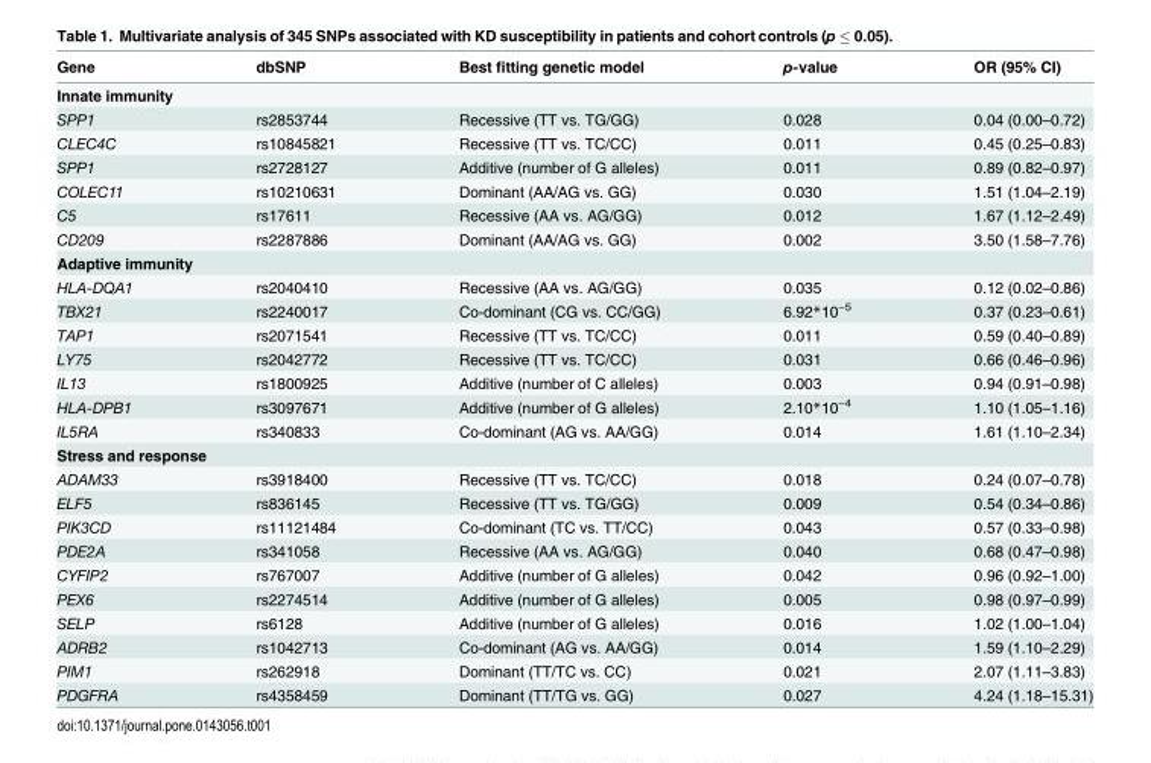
<table><thead><tr><td>Gene</td><td>dbSNP</td><td>Best fitting genetic model</td><td>p-value</td><td>OR (95% CI)</td></tr></thead><tbody><tr><td colspan="5">Innate immunity</td></tr><tr><td>SPP1</td><td>rs2853744</td><td>Recessive (TT vs. TG/GG)</td><td>0.028</td><td>0.04 (0.00–0.72)</td></tr><tr><td>CLEC4C</td><td>rs10845821</td><td>Recessive (TT vs. TC/CC)</td><td>0.011</td><td>0.45 (0.25–0.83)</td></tr><tr><td>SPP1</td><td>rs2728127</td><td>Additive (number of G alleles)</td><td>0.011</td><td>0.89 (0.82–0.97)</td></tr><tr><td>COLEC11</td><td>rs10210631</td><td>Dominant (AA/AG vs. GG)</td><td>0.030</td><td>1.51 (1.04–2.19)</td></tr><tr><td>C5</td><td>rs17611</td><td>Recessive (AA vs. AG/GG)</td><td>0.012</td><td>1.67 (1.12–2.49)</td></tr><tr><td>CD209</td><td>rs2287886</td><td>Dominant (AA/AG vs. GG)</td><td>0.002</td><td>3.50 (1.58–7.76)</td></tr><tr><td colspan="5">Adaptive immunity</td></tr><tr><td>HLA-DQA1</td><td>rs2040410</td><td>Recessive (AA vs. AG/GG)</td><td>0.035</td><td>0.12 (0.02–0.86)</td></tr><tr><td>TBX21</td><td>rs2240017</td><td>Co-dominant (CG vs. CC/GG)</td><td>6.92*10<sup>−5</sup></td><td>0.37 (0.23–0.61)</td></tr><tr><td>TAP1</td><td>rs2071541</td><td>Recessive (TT vs. TC/CC)</td><td>0.011</td><td>0.59 (0.40–0.89)</td></tr><tr><td>LY75</td><td>rs2042772</td><td>Recessive (TT vs. TC/CC)</td><td>0.031</td><td>0.66 (0.46–0.96)</td></tr><tr><td>IL13</td><td>rs1800925</td><td>Additive (number of C alleles)</td><td>0.003</td><td>0.94 (0.91–0.98)</td></tr><tr><td>HLA-DPB1</td><td>rs3097671</td><td>Additive (number of G alleles)</td><td>2.10*10<sup>−4</sup></td><td>1.10 (1.05–1.16)</td></tr><tr><td>IL5RA</td><td>rs340833</td><td>Co-dominant (AG vs. AA/GG)</td><td>0.014</td><td>1.61 (1.10–2.34)</td></tr><tr><td colspan="5">Stress and response</td></tr><tr><td>ADAM33</td><td>rs3918400</td><td>Recessive (TT vs. TC/CC)</td><td>0.018</td><td>0.24 (0.07–0.78)</td></tr><tr><td>ELF5</td><td>rs836145</td><td>Recessive (TT vs. TG/GG)</td><td>0.009</td><td>0.54 (0.34–0.86)</td></tr><tr><td>PIK3CD</td><td>rs11121484</td><td>Co-dominant (TC vs. TT/CC)</td><td>0.043</td><td>0.57 (0.33–0.98)</td></tr><tr><td>PDE2A</td><td>rs341058</td><td>Recessive (AA vs. AG/GG)</td><td>0.040</td><td>0.68 (0.47–0.98)</td></tr><tr><td>CYFIP2</td><td>rs767007</td><td>Additive (number of G alleles)</td><td>0.042</td><td>0.96 (0.92–1.00)</td></tr><tr><td>PEX6</td><td>rs2274514</td><td>Additive (number of G alleles)</td><td>0.005</td><td>0.98 (0.97–0.99)</td></tr><tr><td>SELP</td><td>rs6128</td><td>Additive (number of G alleles)</td><td>0.016</td><td>1.02 (1.00–1.04)</td></tr><tr><td>ADRB2</td><td>rs1042713</td><td>Co-dominant (AG vs. AA/GG)</td><td>0.014</td><td>1.59 (1.10–2.29)</td></tr><tr><td>PIM1</td><td>rs262918</td><td>Dominant (TT/TC vs. CC)</td><td>0.021</td><td>2.07 (1.11–3.83)</td></tr><tr><td>PDGFRA</td><td>rs4358459</td><td>Dominant (TT/TG vs. GG)</td><td>0.027</td><td>4.24 (1.18–15.31)</td></tr></tbody></table>